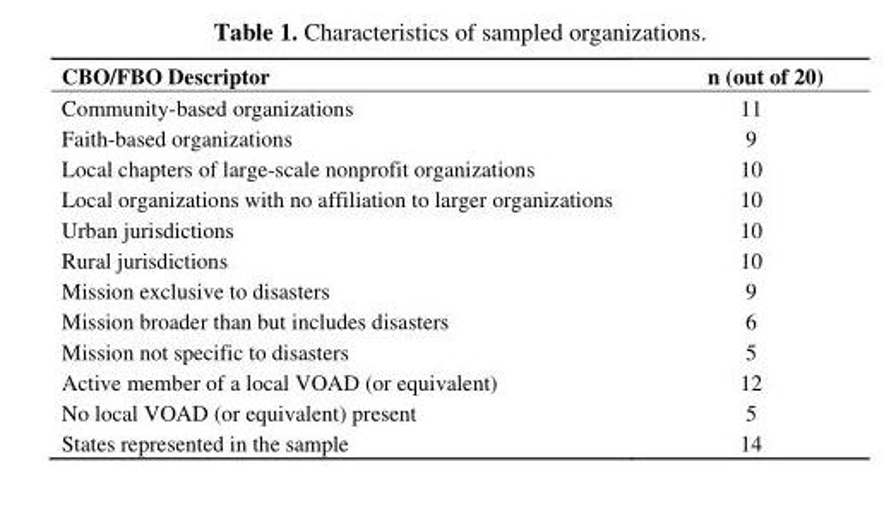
<table><thead><tr><td>CBO/FBO Descriptor</td><td>n (out of 20)</td></tr></thead><tbody><tr><td>Community-based organizations</td><td>11</td></tr><tr><td>Faith-based organizations</td><td>9</td></tr><tr><td>Local chapters of large-scale nonprofit organizations</td><td>10</td></tr><tr><td>Local organizations with no affiliation to larger organizations</td><td>10</td></tr><tr><td>Urban jurisdictions</td><td>10</td></tr><tr><td>Rural jurisdictions</td><td>10</td></tr><tr><td>Mission exclusive to disasters</td><td>9</td></tr><tr><td>Mission broader than but includes disasters</td><td>6</td></tr><tr><td>Mission not specific to disasters</td><td>5</td></tr><tr><td>Active member of a local VOAD (or equivalent)</td><td>12</td></tr><tr><td>No local VOAD (or equivalent) present</td><td>5</td></tr><tr><td>States represented in the sample</td><td>14</td></tr></tbody></table>